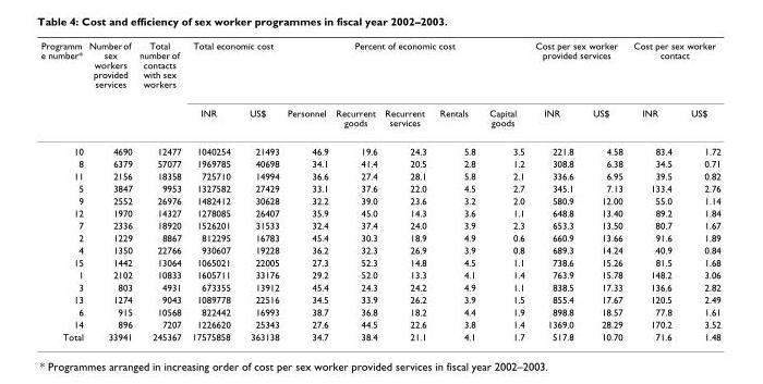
<table><thead><tr><td rowspan="2">Programm e number*</td><td rowspan="2">Number of sex workers provided services</td><td rowspan="2">Total number of contacts with sex workers</td><td colspan="2">Total economic cost</td><td colspan="5">Percent of economic cost</td><td colspan="2">Cost per sex worker provided services</td><td colspan="2">Cost per sex worker contact</td></tr><tr><td>INR</td><td>US$</td><td>Personnel</td><td>Recurrent goods</td><td>Recurrent services</td><td>Rentals</td><td>Capital goods</td><td>INR</td><td>US$</td><td>INR</td><td>US$</td></tr></thead><tbody><tr><td>10</td><td>4690</td><td>12477</td><td>1040254</td><td>21493</td><td>46.9</td><td>19.6</td><td>24.3</td><td>5.8</td><td>3.5</td><td>221.8</td><td>4.58</td><td>83.4</td><td>1.72</td></tr><tr><td>8</td><td>6379</td><td>57077</td><td>1969785</td><td>40698</td><td>34.1</td><td>41.4</td><td>20.5</td><td>2.8</td><td>1.2</td><td>308.8</td><td>6.38</td><td>34.5</td><td>0.71</td></tr><tr><td>11</td><td>2156</td><td>18358</td><td>725710</td><td>14994</td><td>36.6</td><td>27.4</td><td>28.1</td><td>5.8</td><td>2.1</td><td>336.6</td><td>6.95</td><td>39.5</td><td>0.82</td></tr><tr><td>5</td><td>3847</td><td>9953</td><td>1327582</td><td>27429</td><td>33.1</td><td>37.6</td><td>22.0</td><td>4.5</td><td>2.7</td><td>345.1</td><td>7.13</td><td>133.4</td><td>2.76</td></tr><tr><td>9</td><td>2552</td><td>26976</td><td>1482412</td><td>30628</td><td>32.2</td><td>39.0</td><td>23.6</td><td>3.2</td><td>2.0</td><td>580.9</td><td>12.00</td><td>55.0</td><td>1.14</td></tr><tr><td>12</td><td>1970</td><td>14327</td><td>1278085</td><td>26407</td><td>35.9</td><td>45.0</td><td>14.3</td><td>3.6</td><td>1.1</td><td>648.8</td><td>13.40</td><td>89.2</td><td>1.84</td></tr><tr><td>7</td><td>2336</td><td>18920</td><td>1526201</td><td>31533</td><td>32.4</td><td>37.4</td><td>24.0</td><td>3.9</td><td>2.3</td><td>653.3</td><td>13.50</td><td>80.7</td><td>1.67</td></tr><tr><td>2</td><td>1229</td><td>8867</td><td>812295</td><td>16783</td><td>45.4</td><td>30.3</td><td>18.9</td><td>4.9</td><td>0.6</td><td>660.9</td><td>13.66</td><td>91.6</td><td>1.89</td></tr><tr><td>4</td><td>1350</td><td>22766</td><td>930607</td><td>19228</td><td>36.2</td><td>32.3</td><td>26.9</td><td>3.9</td><td>0.8</td><td>689.3</td><td>14.24</td><td>40.9</td><td>0.84</td></tr><tr><td>15</td><td>1442</td><td>13064</td><td>1065021</td><td>22005</td><td>27.3</td><td>52.3</td><td>14.8</td><td>4.5</td><td>1.1</td><td>738.6</td><td>15.26</td><td>81.5</td><td>1.68</td></tr><tr><td>1</td><td>2102</td><td>10833</td><td>1605711</td><td>33176</td><td>29.2</td><td>52.0</td><td>13.3</td><td>4.1</td><td>1.4</td><td>763.9</td><td>15.78</td><td>148.2</td><td>3.06</td></tr><tr><td>3</td><td>803</td><td>4931</td><td>673355</td><td>13912</td><td>45.4</td><td>24.3</td><td>24.2</td><td>4.9</td><td>1.1</td><td>838.5</td><td>17.33</td><td>136.6</td><td>2.82</td></tr><tr><td>13</td><td>1274</td><td>9043</td><td>1089778</td><td>22516</td><td>34.5</td><td>33.9</td><td>26.2</td><td>3.9</td><td>1.5</td><td>855.4</td><td>17.67</td><td>120.5</td><td>2.49</td></tr><tr><td>6</td><td>915</td><td>10568</td><td>822442</td><td>16993</td><td>38.7</td><td>36.8</td><td>18.2</td><td>4.4</td><td>1.9</td><td>898.8</td><td>18.57</td><td>77.8</td><td>1.61</td></tr><tr><td>14</td><td>896</td><td>7207</td><td>1226620</td><td>25343</td><td>27.6</td><td>44.5</td><td>22.6</td><td>3.8</td><td>1.4</td><td>1369.0</td><td>28.29</td><td>170.2</td><td>3.52</td></tr><tr><td>Total</td><td>33941</td><td>245367</td><td>17575858</td><td>363138</td><td>34.7</td><td>38.4</td><td>21.1</td><td>4.1</td><td>1.7</td><td>517.8</td><td>10.70</td><td>71.6</td><td>1.48</td></tr></tbody></table>